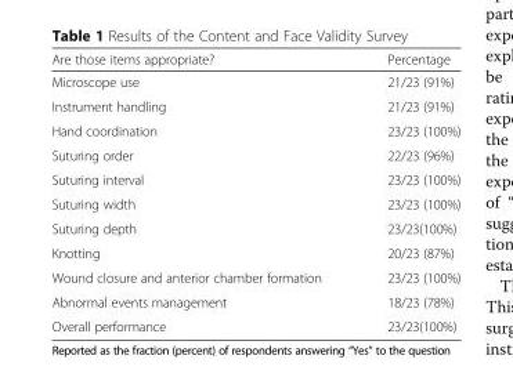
<table><thead><tr><td>Are those items appropriate?</td><td>Percentage</td></tr></thead><tbody><tr><td>Microscope use</td><td>21/23 (91%)</td></tr><tr><td>Instrument handling</td><td>21/23 (91%)</td></tr><tr><td>Hand coordination</td><td>23/23 (100%)</td></tr><tr><td>Suturing order</td><td>22/23 (96%)</td></tr><tr><td>Suturing interval</td><td>23/23 (100%)</td></tr><tr><td>Suturing width</td><td>23/23 (100%)</td></tr><tr><td>Suturing depth</td><td>23/23(100%)</td></tr><tr><td>Knotting</td><td>20/23 (87%)</td></tr><tr><td>Wound closure and anterior chamber formation</td><td>23/23 (100%)</td></tr><tr><td>Abnormal events management</td><td>18/23 (78%)</td></tr><tr><td>Overall performance</td><td>23/23(100%)</td></tr></tbody></table>